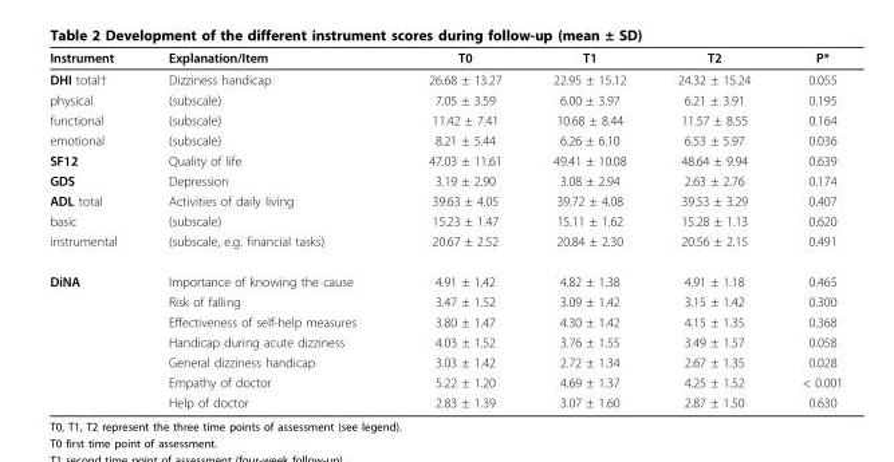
<table><thead><tr><td>Instrument</td><td>Explanation/Item</td><td>T0</td><td>T1</td><td>T2</td><td>P*</td></tr></thead><tbody><tr><td>DHI total†</td><td>Dizziness handicap</td><td>26.68 ± 13.27</td><td>22.95 ± 15.12</td><td>24.32 ± 15.24</td><td>0.055</td></tr><tr><td>physical</td><td>(subscale)</td><td>7.05 ± 3.59</td><td>6.00 ± 3.97</td><td>6.21 ± 3.91</td><td>0.195</td></tr><tr><td>functional</td><td>(subscale)</td><td>11.42 ± 7.41</td><td>10.68 ± 8.44</td><td>11.57 ± 8.55</td><td>0.164</td></tr><tr><td>emotional</td><td>(subscale)</td><td>8.21 ± 5.44</td><td>6.26 ± 6.10</td><td>6.53 ± 5.97</td><td>0.036</td></tr><tr><td>SF12</td><td>Quality of life</td><td>47.03 ± 11.61</td><td>49.41 ± 10.08</td><td>48.64 ± 9.94</td><td>0.639</td></tr><tr><td>GDS</td><td>Depression</td><td>3.19 ± 2.90</td><td>3.08 ± 2.94</td><td>2.63 ± 2.76</td><td>0.174</td></tr><tr><td>ADL total</td><td>Activities of daily living</td><td>39.63 ± 4.05</td><td>39.72 ± 4.08</td><td>39.53 ± 3.29</td><td>0.407</td></tr><tr><td>basic</td><td>(subscale)</td><td>15.23 ± 1.47</td><td>15.11 ± 1.62</td><td>15.28 ± 1.13</td><td>0.620</td></tr><tr><td>instrumental</td><td>(subscale, e.g. financial tasks)</td><td>20.67 ± 2.52</td><td>20.84 ± 2.30</td><td>20.56 ± 2.15</td><td>0.491</td></tr><tr><td rowspan="7">DiNA</td><td>Importance of knowing the cause</td><td>4.91 ± 1.42</td><td>4.82 ± 1.38</td><td>4.91 ± 1.18</td><td>0.465</td></tr><tr><td>Risk of falling</td><td>3.47 ± 1.52</td><td>3.09 ± 1.42</td><td>3.15 ± 1.42</td><td>0.300</td></tr><tr><td>Effectiveness of self-help measures</td><td>3.80 ± 1.47</td><td>4.30 ± 1.42</td><td>4.15 ± 1.35</td><td>0.368</td></tr><tr><td>Handicap during acute dizziness</td><td>4.03 ± 1.52</td><td>3.76 ± 1.55</td><td>3.49 ± 1.57</td><td>0.058</td></tr><tr><td>General dizziness handicap</td><td>3.03 ± 1.42</td><td>2.72 ± 1.34</td><td>2.67 ± 1.35</td><td>0.028</td></tr><tr><td>Empathy of doctor</td><td>5.22 ± 1.20</td><td>4.69 ± 1.37</td><td>4.25 ± 1.52</td><td>&lt; 0.001</td></tr><tr><td>Help of doctor</td><td>2.83 ± 1.39</td><td>3.07 ± 1.60</td><td>2.87 ± 1.50</td><td>0.630</td></tr></tbody></table>